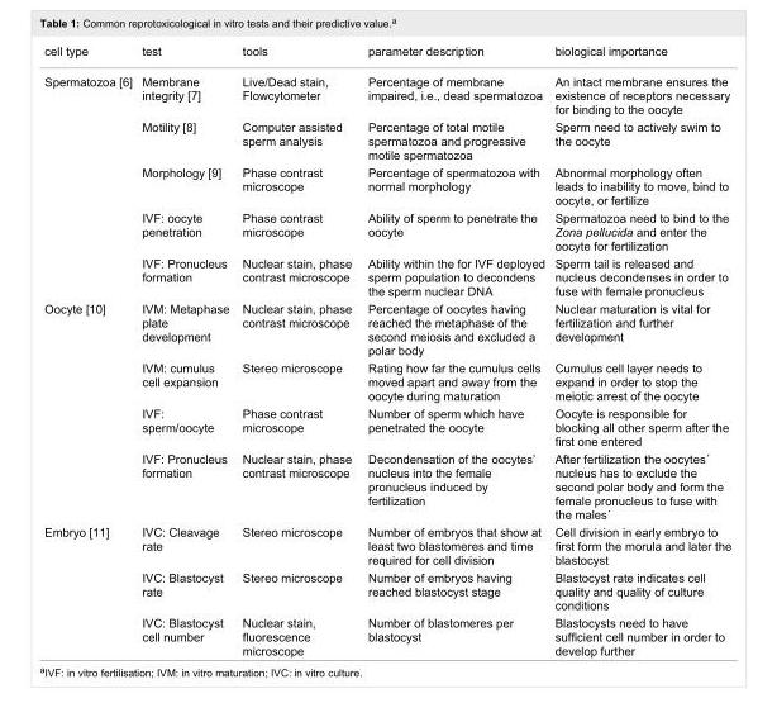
<table><tbody><tr><td>cell type</td><td>test</td><td>tools</td><td>parameter description</td><td>biological importance</td></tr><tr><td rowspan="5">Spermatozoa [6]</td><td>Membrane integrity [7]</td><td>Live/Dead stain, Flowcytometer</td><td>Percentage of membrane impaired, i.e., dead spermatozoa</td><td>An intact membrane ensures the existence of receptors necessary for binding to the oocyte</td></tr><tr><td>Motility [8]</td><td>Computer assisted sperm analysis</td><td>Percentage of total motile spermatozoa and progressive motile spermatozoa</td><td>Sperm need to actively swim to the oocyte</td></tr><tr><td>Morphology [9]</td><td>Phase contrast microscope</td><td>Percentage of spermatozoa with normal morphology</td><td>Abnormal morphology often leads to inability to move, bind to oocyte, or fertilize</td></tr><tr><td>IVF: oocyte penetration</td><td>Phase contrast microscope</td><td>Ability of sperm to penetrate the oocyte</td><td>Spermatozoa need to bind to the Zona pellucida and enter the oocyte for fertilization</td></tr><tr><td>IVF: Pronucleus formation</td><td>Nuclear stain, phase contrast microscope</td><td>Ability within the for IVF deployed sperm population to decondens the sperm nuclear DNA</td><td>Sperm tail is released and nucleus decondenses in order to fuse with female pronucleus</td></tr><tr><td rowspan="4">Oocyte [10]</td><td>IVM: Metaphase plate development</td><td>Nuclear stain, phase contrast microscope</td><td>Percentage of oocytes having reached the metaphase of the second meiosis and excluded a polar body</td><td>Nuclear maturation is vital for fertilization and further development</td></tr><tr><td>IVM: cumulus cell expansion</td><td>Stereo microscope</td><td>Rating how far the cumulus cells moved apart and away from the oocyte during maturation</td><td>Cumulus cell layer needs to expand in order to stop the meiotic arrest of the oocyte</td></tr><tr><td>IVF: sperm/oocyte</td><td>Phase contrast microscope</td><td>Number of sperm which have penetrated the oocyte</td><td>Oocyte is responsible for blocking all other sperm after the first one entered</td></tr><tr><td>IVF: Pronucleus formation</td><td>Nuclear stain, phase contrast microscope</td><td>Decondensation of the oocytes’ nucleus into the female pronucleus induced by fertilization</td><td>After fertilization the oocytes´ nucleus has to exclude the second polar body and form the female pronucleus to fuse with the males´</td></tr><tr><td rowspan="3">Embryo [11]</td><td>IVC: Cleavage rate</td><td>Stereo microscope</td><td>Number of embryos that show at least two blastomeres and time required for cell division</td><td>Cell division in early embryo to first form the morula and later the blastocyst</td></tr><tr><td>IVC: Blastocyst rate</td><td>Stereo microscope</td><td>Number of embryos having reached blastocyst stage</td><td>Blastocyst rate indicates cell quality and quality of culture conditions</td></tr><tr><td>IVC: Blastocyst cell number</td><td>Nuclear stain, fluorescence microscope</td><td>Number of blastomeres per blastocyst</td><td>Blastocysts need to have sufficient cell number in order to develop further</td></tr></tbody></table>